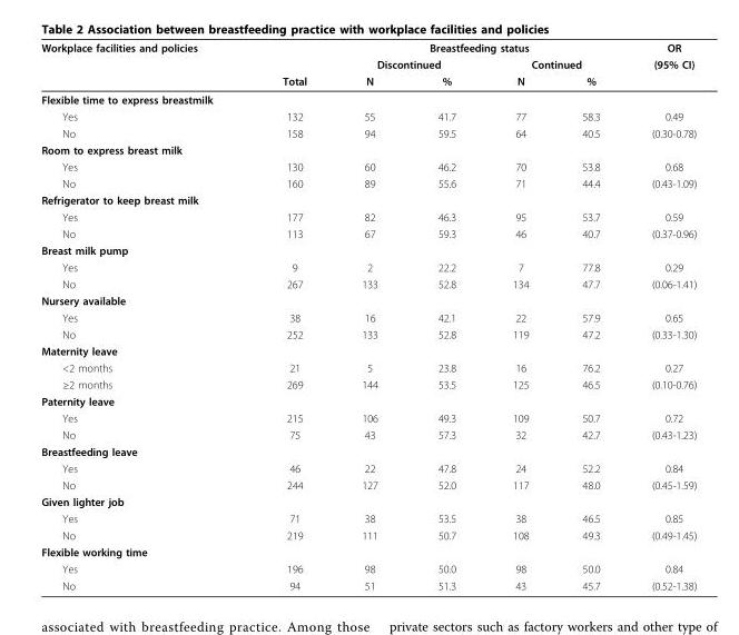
<table><thead><tr><td rowspan="3">Workplace facilities and policies</td><td rowspan="3">Total</td><td colspan="4">Breastfeeding status</td><td rowspan="3">OR (95% CI)</td></tr><tr><td colspan="2">Discontinued</td><td colspan="2">Continued</td></tr><tr><td>N</td><td>%</td><td>N</td><td>%</td></tr></thead><tbody><tr><td colspan="7">Flexible time to express breastmilk</td></tr><tr><td>Yes</td><td>132</td><td>55</td><td>41.7</td><td>77</td><td>58.3</td><td>0.49</td></tr><tr><td>No</td><td>158</td><td>94</td><td>59.5</td><td>64</td><td>40.5</td><td>(0.30-0.78)</td></tr><tr><td colspan="7">Room to express breast milk</td></tr><tr><td>Yes</td><td>130</td><td>60</td><td>46.2</td><td>70</td><td>53.8</td><td>0.68</td></tr><tr><td>No</td><td>160</td><td>89</td><td>55.6</td><td>71</td><td>44.4</td><td>(0.43-1.09)</td></tr><tr><td colspan="7">Refrigerator to keep breast milk</td></tr><tr><td>Yes</td><td>177</td><td>82</td><td>46.3</td><td>95</td><td>53.7</td><td>0.59</td></tr><tr><td>No</td><td>113</td><td>67</td><td>59.3</td><td>46</td><td>40.7</td><td>(0.37-0.96)</td></tr><tr><td colspan="7">Breast milk pump</td></tr><tr><td>Yes</td><td>9</td><td>2</td><td>22.2</td><td>7</td><td>77.8</td><td>0.29</td></tr><tr><td>No</td><td>267</td><td>133</td><td>52.8</td><td>134</td><td>47.7</td><td>(0.06-1.41)</td></tr><tr><td colspan="7">Nursery available</td></tr><tr><td>Yes</td><td>38</td><td>16</td><td>42.1</td><td>22</td><td>57.9</td><td>0.65</td></tr><tr><td>No</td><td>252</td><td>133</td><td>52.8</td><td>119</td><td>47.2</td><td>(0.33-1.30)</td></tr><tr><td colspan="7">Maternity leave</td></tr><tr><td>&lt;2 months</td><td>21</td><td>5</td><td>23.8</td><td>16</td><td>76.2</td><td>0.27</td></tr><tr><td>≥2 months</td><td>269</td><td>144</td><td>53.5</td><td>125</td><td>46.5</td><td>(0.10-0.76)</td></tr><tr><td colspan="7">Paternity leave</td></tr><tr><td>Yes</td><td>215</td><td>106</td><td>49.3</td><td>109</td><td>50.7</td><td>0.72</td></tr><tr><td>No</td><td>75</td><td>43</td><td>57.3</td><td>32</td><td>42.7</td><td>(0.43-1.23)</td></tr><tr><td colspan="7">Breastfeeding leave</td></tr><tr><td>Yes</td><td>46</td><td>22</td><td>47.8</td><td>24</td><td>52.2</td><td>0.84</td></tr><tr><td>No</td><td>244</td><td>127</td><td>52.0</td><td>117</td><td>48.0</td><td>(0.45-1.59)</td></tr><tr><td colspan="7">Given lighter job</td></tr><tr><td>Yes</td><td>71</td><td>38</td><td>53.5</td><td>38</td><td>46.5</td><td>0.85</td></tr><tr><td>No</td><td>219</td><td>111</td><td>50.7</td><td>108</td><td>49.3</td><td>(0.49-1.45)</td></tr><tr><td colspan="7">Flexible working time</td></tr><tr><td>Yes</td><td>196</td><td>98</td><td>50.0</td><td>98</td><td>50.0</td><td>0.84</td></tr><tr><td>No</td><td>94</td><td>51</td><td>51.3</td><td>43</td><td>45.7</td><td>(0.52-1.38)</td></tr></tbody></table>